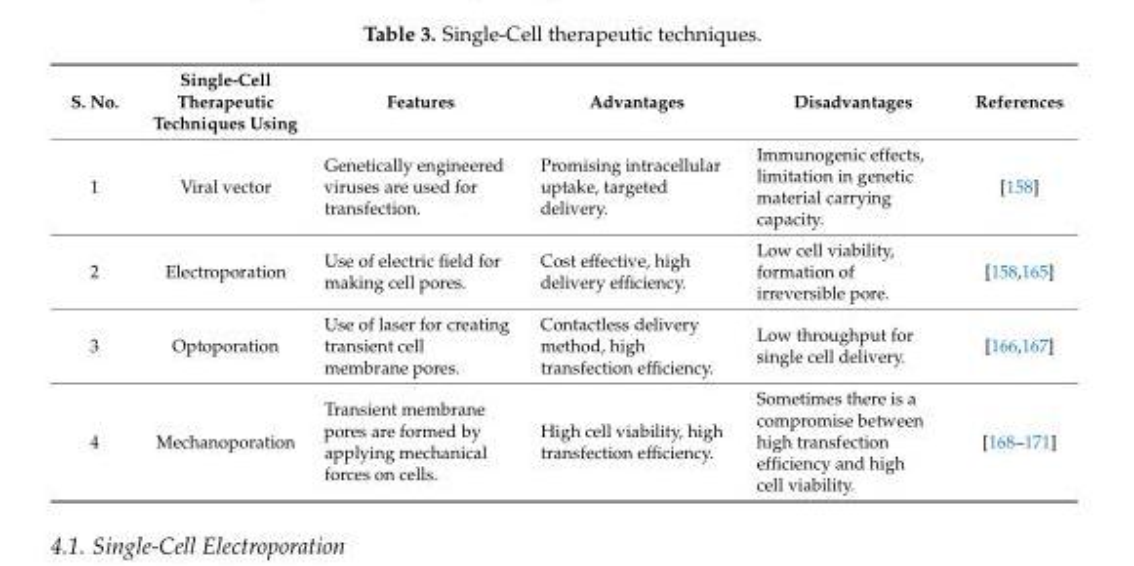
<table><thead><tr><td>S. No.</td><td>Single-Cell Therapeutic Techniques Using</td><td>Features</td><td>Advantages</td><td>Disadvantages</td><td>References</td></tr></thead><tbody><tr><td>1</td><td>Viral vector</td><td>Genetically engineered viruses are used for transfection.</td><td>Promising intracellular uptake, targeted delivery.</td><td>Immunogenic effects, limitation in genetic material carrying capacity.</td><td>[158]</td></tr><tr><td>2</td><td>Electroporation</td><td>Use of electric field for making cell pores.</td><td>Cost effective, high delivery efficiency.</td><td>Low cell viability, formation of irreversible pore.</td><td>[158,165]</td></tr><tr><td>3</td><td>Optoporation</td><td>Use of laser for creating transient cell membrane pores.</td><td>Contactless delivery method, high transfection efficiency.</td><td>Low throughput for single cell delivery.</td><td>[166,167]</td></tr><tr><td>4</td><td>Mechanoporation</td><td>Transient membrane pores are formed by applying mechanical forces on cells.</td><td>High cell viability, high transfection efficiency.</td><td>Sometimes there is a compromise between high transfection efficiency and high cell viability.</td><td>[168–171]</td></tr></tbody></table>